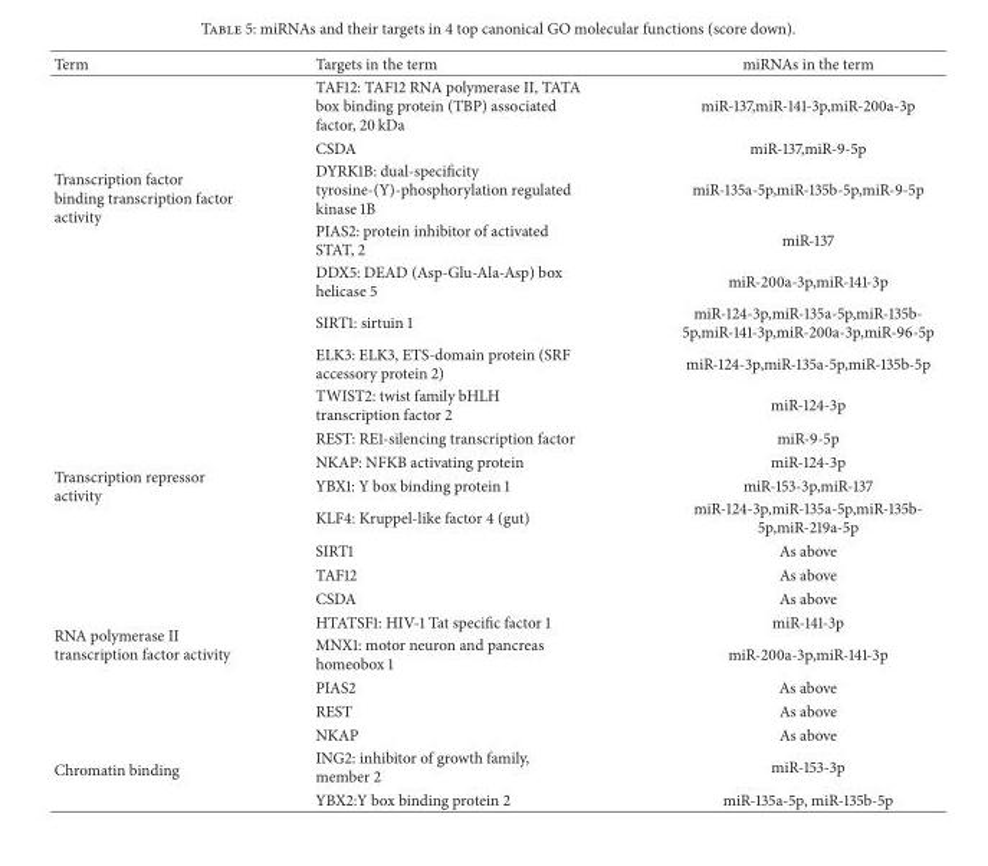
<table><thead><tr><td>Term</td><td>Targets in the term</td><td>miRNAs in the term</td></tr></thead><tbody><tr><td rowspan="7">Transcription factor binding transcription factor activity</td><td>TAF12: TAF12 RNA polymerase II, TATA box binding protein (TBP) associated factor, 20 kDa</td><td>miR-137,miR-141-3p,miR-200a-3p</td></tr><tr><td>CSDA</td><td>miR-137,miR-9-5p</td></tr><tr><td>DYRK1B: dual-specificity tyrosine-(Y)-phosphorylation regulated kinase 1B</td><td>miR-135a-5p,miR-135b-5p,miR-9-5p</td></tr><tr><td>PIAS2: protein inhibitor of activated STAT, 2</td><td>miR-137</td></tr><tr><td>DDX5: DEAD (Asp-Glu-Ala-Asp) box helicase 5</td><td>miR-200a-3p,miR-141-3p</td></tr><tr><td>SIRT1: sirtuin 1</td><td>miR-124-3p,miR-135a-5p,miR-135b- 5p,miR-141-3p,miR-200a-3p,miR-96-5p</td></tr><tr><td>ELK3: ELK3, ETS-domain protein (SRF accessory protein 2)</td><td>miR-124-3p,miR-135a-5p,miR-135b-5p</td></tr><tr><td rowspan="6">Transcription repressor activity</td><td>TWIST2: twist family bHLH transcription factor 2</td><td>miR-124-3p</td></tr><tr><td>REST: RE1-silencing transcription factor</td><td>miR-9-5p</td></tr><tr><td>NKAP: NFKB activating protein</td><td>miR-124-3p</td></tr><tr><td>YBX1: Y box binding protein 1</td><td>miR-153-3p,miR-137</td></tr><tr><td>KLF4: Kruppel-like factor 4 (gut)</td><td>miR-124-3p,miR-135a-5p,miR-135b- 5p,miR-219a-5p</td></tr><tr><td>SIRT1</td><td>As above</td></tr><tr><td rowspan="5">RNA polymerase II transcription factor activity</td><td>TAF12</td><td>As above</td></tr><tr><td>CSDA</td><td>As above</td></tr><tr><td>HTATSF1: HIV-1 Tat specific factor 1</td><td>miR-141-3p</td></tr><tr><td>MNX1: motor neuron and pancreas homeobox 1</td><td>miR-200a-3p,miR-141-3p</td></tr><tr><td>PIAS2</td><td>As above</td></tr><tr><td rowspan="4">Chromatin binding</td><td>REST</td><td>As above</td></tr><tr><td>NKAP</td><td>As above</td></tr><tr><td>ING2: inhibitor of growth family, member 2</td><td>miR-153-3p</td></tr><tr><td>YBX2:Y box binding protein 2</td><td>miR-135a-5p, miR-135b-5p</td></tr></tbody></table>